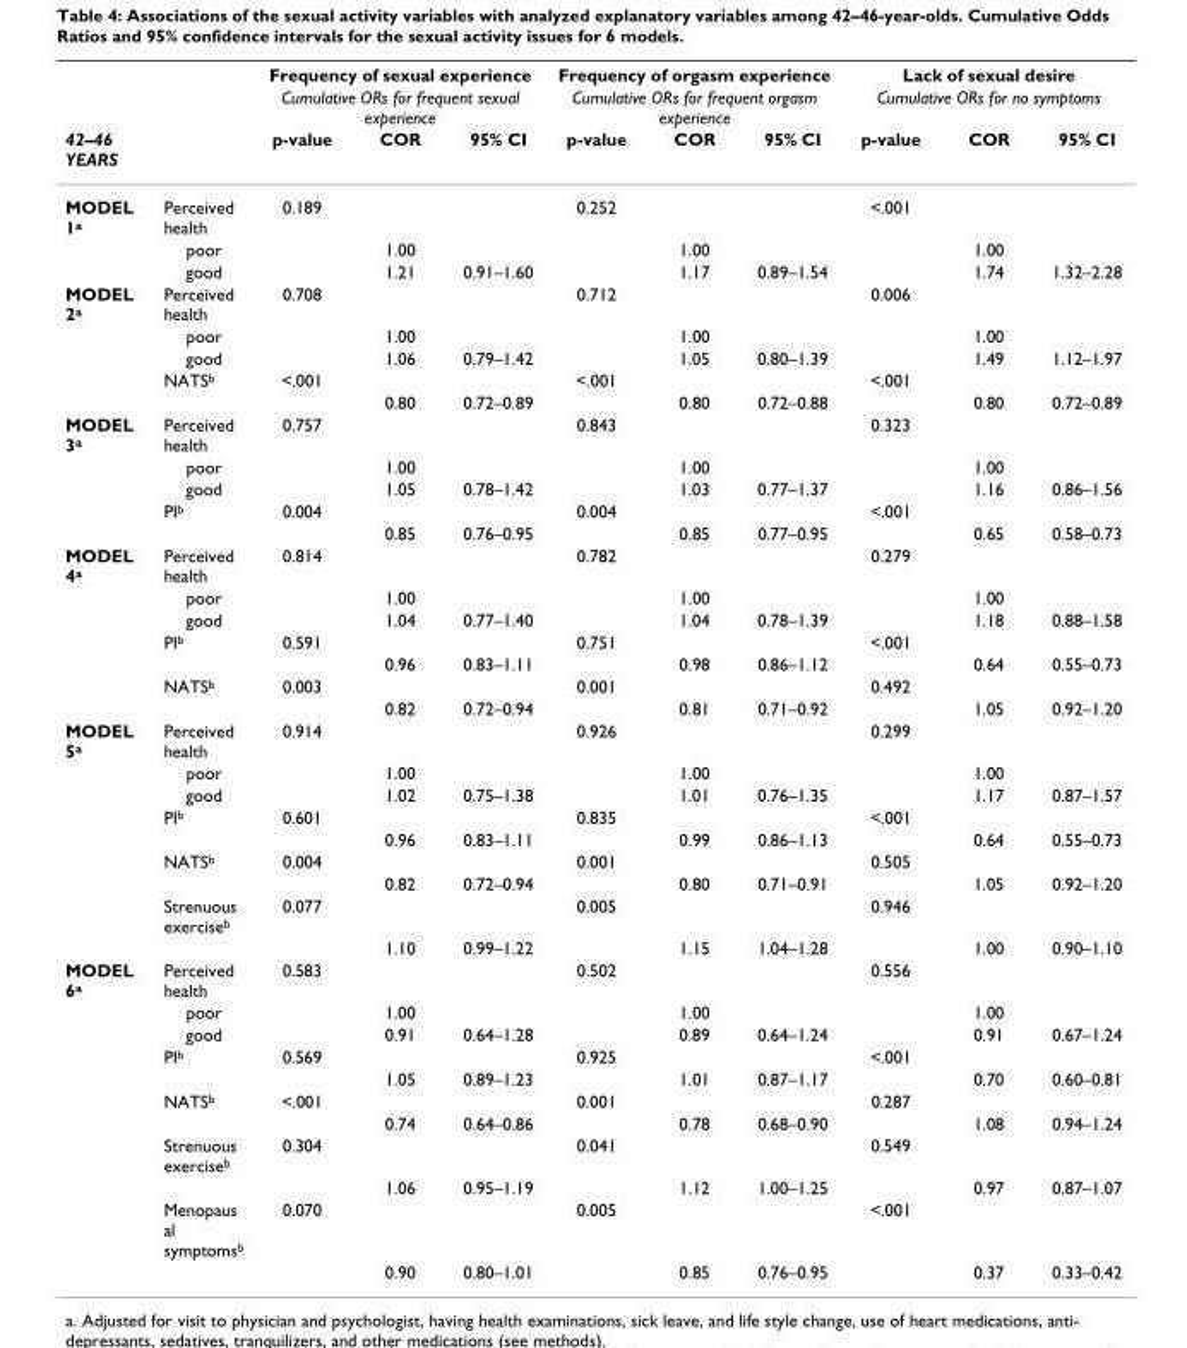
<table><thead><tr><td rowspan="3">42–46 YEARS</td><td rowspan="3"></td><td rowspan="2" colspan="3">Frequency of sexual experience Cumulative ORs for frequent sexual experience</td><td rowspan="2" colspan="3">Frequency of orgasm experience Cumulative ORs for frequent orgasm experience</td><td rowspan="2" colspan="3">Lack of sexual desire Cumulative ORs for no symptoms</td></tr><tr></tr><tr><td>p-value</td><td>COR</td><td>95% CI</td><td>p-value</td><td>COR</td><td>95% CI</td><td>p-value</td><td>COR</td><td>95% CI</td></tr></thead><tbody><tr><td rowspan="3">MODEL 1<sup>a</sup></td><td>Perceived health</td><td>0.189</td><td></td><td></td><td>0.252</td><td></td><td></td><td>&lt;.001</td><td></td><td></td></tr><tr><td>poor</td><td></td><td>1.00</td><td></td><td></td><td>1.00</td><td></td><td></td><td>1.00</td><td></td></tr><tr><td>good</td><td></td><td>1.21</td><td>0.91–1.60</td><td></td><td>1.17</td><td>0.89–1.54</td><td></td><td>1.74</td><td>1.32–2.28</td></tr><tr><td rowspan="5">MODEL 2<sup>a</sup></td><td>Perceived health</td><td>0.708</td><td></td><td></td><td>0.712</td><td></td><td></td><td>0.006</td><td></td><td></td></tr><tr><td>poor</td><td></td><td>1.00</td><td></td><td></td><td>1.00</td><td></td><td></td><td>1.00</td><td></td></tr><tr><td>good</td><td></td><td>1.06</td><td>0.79–1.42</td><td></td><td>1.05</td><td>0.80–1.39</td><td></td><td>1.49</td><td>1.12–1.97</td></tr><tr><td>NATS<sup>b</sup></td><td>&lt;.001</td><td></td><td></td><td>&lt;.001</td><td></td><td></td><td>&lt;.001</td><td></td><td></td></tr><tr><td></td><td></td><td>0.80</td><td>0.72–0.89</td><td></td><td>0.80</td><td>0.72–0.88</td><td></td><td>0.80</td><td>0.72–0.89</td></tr><tr><td rowspan="5">MODEL 3<sup>a</sup></td><td>Perceived health</td><td>0.757</td><td></td><td></td><td>0.843</td><td></td><td></td><td>0.323</td><td></td><td></td></tr><tr><td>poor</td><td></td><td>1.00</td><td></td><td></td><td>1.00</td><td></td><td></td><td>1.00</td><td></td></tr><tr><td>good</td><td></td><td>1.05</td><td>0.78–1.42</td><td></td><td>1.03</td><td>0.77–1.37</td><td></td><td>1.16</td><td>0.86–1.56</td></tr><tr><td>PI<sup>b</sup></td><td>0.004</td><td></td><td></td><td>0.004</td><td></td><td></td><td>&lt;.001</td><td></td><td></td></tr><tr><td></td><td></td><td>0.85</td><td>0.76–0.95</td><td></td><td>0.85</td><td>0.77–0.95</td><td></td><td>0.65</td><td>0.58–0.73</td></tr><tr><td rowspan="7">MODEL 4<sup>a</sup></td><td>Perceived health</td><td>0.814</td><td></td><td></td><td>0.782</td><td></td><td></td><td>0.279</td><td></td><td></td></tr><tr><td>poor</td><td></td><td>1.00</td><td></td><td></td><td>1.00</td><td></td><td></td><td>1.00</td><td></td></tr><tr><td>good</td><td></td><td>1.04</td><td>0.77–1.40</td><td></td><td>1.04</td><td>0.78–1.39</td><td></td><td>1.18</td><td>0.88–1.58</td></tr><tr><td>PI<sup>b</sup></td><td>0.591</td><td></td><td></td><td>0.751</td><td></td><td></td><td>&lt;.001</td><td></td><td></td></tr><tr><td></td><td></td><td>0.96</td><td>0.83–1.11</td><td></td><td>0.98</td><td>0.86–1.12</td><td></td><td>0.64</td><td>0.55–0.73</td></tr><tr><td>NATS<sup>b</sup></td><td>0.003</td><td></td><td></td><td>0.001</td><td></td><td></td><td>0.492</td><td></td><td></td></tr><tr><td></td><td></td><td>0.82</td><td>0.72–0.94</td><td></td><td>0.81</td><td>0.71–0.92</td><td></td><td>1.05</td><td>0.92–1.20</td></tr><tr><td rowspan="9">MODEL 5<sup>a</sup></td><td>Perceived health</td><td>0.914</td><td></td><td></td><td>0.926</td><td></td><td></td><td>0.299</td><td></td><td></td></tr><tr><td>poor</td><td></td><td>1.00</td><td></td><td></td><td>1.00</td><td></td><td></td><td>1.00</td><td></td></tr><tr><td>good</td><td></td><td>1.02</td><td>0.75–1.38</td><td></td><td>1.01</td><td>0.76–1.35</td><td></td><td>1.17</td><td>0.87–1.57</td></tr><tr><td>PI<sup>b</sup></td><td>0.601</td><td></td><td></td><td>0.835</td><td></td><td></td><td>&lt;.001</td><td></td><td></td></tr><tr><td></td><td></td><td>0.96</td><td>0.83–1.11</td><td></td><td>0.99</td><td>0.86–1.13</td><td></td><td>0.64</td><td>0.55–0.73</td></tr><tr><td>NATS<sup>b</sup></td><td>0.004</td><td></td><td></td><td>0.001</td><td></td><td></td><td>0.505</td><td></td><td></td></tr><tr><td></td><td></td><td>0.82</td><td>0.72–0.94</td><td></td><td>0.80</td><td>0.71–0.91</td><td></td><td>1.05</td><td>0.92–1.20</td></tr><tr><td>Strenuous exercise<sup>b</sup></td><td>0.077</td><td></td><td></td><td>0.005</td><td></td><td></td><td>0.946</td><td></td><td></td></tr><tr><td></td><td></td><td>1.10</td><td>0.99–1.22</td><td></td><td>1.15</td><td>1.04–1.28</td><td></td><td>1.00</td><td>0.90–1.10</td></tr><tr><td rowspan="11">MODEL 6<sup>a</sup></td><td>Perceived health</td><td>0.583</td><td></td><td></td><td>0.502</td><td></td><td></td><td>0.556</td><td></td><td></td></tr><tr><td>poor</td><td></td><td>1.00</td><td></td><td></td><td>1.00</td><td></td><td></td><td>1.00</td><td></td></tr><tr><td>good</td><td></td><td>0.91</td><td>0.64–1.28</td><td></td><td>0.89</td><td>0.64–1.24</td><td></td><td>0.91</td><td>0.67–1.24</td></tr><tr><td>PI<sup>b</sup></td><td>0.569</td><td></td><td></td><td>0.925</td><td></td><td></td><td>&lt;.001</td><td></td><td></td></tr><tr><td></td><td></td><td>1.05</td><td>0.89–1.23</td><td></td><td>1.01</td><td>0.87–1.17</td><td></td><td>0.70</td><td>0.60–0.81</td></tr><tr><td>NATS<sup>b</sup></td><td>&lt;.001</td><td></td><td></td><td>0.001</td><td></td><td></td><td>0.287</td><td></td><td></td></tr><tr><td></td><td></td><td>0.74</td><td>0.64–0.86</td><td></td><td>0.78</td><td>0.68–0.90</td><td></td><td>1.08</td><td>0.94–1.24</td></tr><tr><td>Strenuous exercise<sup>b</sup></td><td>0.304</td><td></td><td></td><td>0.041</td><td></td><td></td><td>0.549</td><td></td><td></td></tr><tr><td></td><td></td><td>1.06</td><td>0.95–1.19</td><td></td><td>1.12</td><td>1.00–1.25</td><td></td><td>0.97</td><td>0.87–1.07</td></tr><tr><td>Menopaus al symptoms<sup>b</sup></td><td>0.070</td><td></td><td></td><td>0.005</td><td></td><td></td><td>&lt;.001</td><td></td><td></td></tr><tr><td></td><td></td><td>0.90</td><td>0.80–1.01</td><td></td><td>0.85</td><td>0.76–0.95</td><td></td><td>0.37</td><td>0.33–0.42</td></tr></tbody></table>